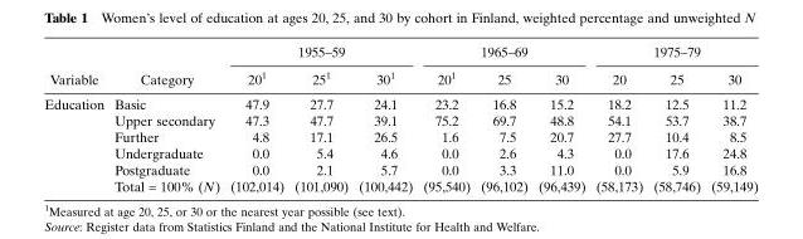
<table><thead><tr><td rowspan="2">Variable</td><td rowspan="2">Category</td><td colspan="3">1955–59</td><td colspan="3">1965–69</td><td colspan="3">1975–79</td></tr><tr><td>20<sup>1</sup></td><td>25<sup>1</sup></td><td>30<sup>1</sup></td><td>20<sup>1</sup></td><td>25</td><td>30</td><td>20</td><td>25</td><td>30</td></tr></thead><tbody><tr><td rowspan="6">Education</td><td>Basic</td><td>47.9</td><td>27.7</td><td>24.1</td><td>23.2</td><td>16.8</td><td>15.2</td><td>18.2</td><td>12.5</td><td>11.2</td></tr><tr><td>Upper secondary</td><td>47.3</td><td>47.7</td><td>39.1</td><td>75.2</td><td>69.7</td><td>48.8</td><td>54.1</td><td>53.7</td><td>38.7</td></tr><tr><td>Further</td><td>4.8</td><td>17.1</td><td>26.5</td><td>1.6</td><td>7.5</td><td>20.7</td><td>27.7</td><td>10.4</td><td>8.5</td></tr><tr><td>Undergraduate</td><td>0.0</td><td>5.4</td><td>4.6</td><td>0.0</td><td>2.6</td><td>4.3</td><td>0.0</td><td>17.6</td><td>24.8</td></tr><tr><td>Postgraduate</td><td>0.0</td><td>2.1</td><td>5.7</td><td>0.0</td><td>3.3</td><td>11.0</td><td>0.0</td><td>5.9</td><td>16.8</td></tr><tr><td>Total = 100% (N)</td><td>(102,014)</td><td>(101,090)</td><td>(100,442)</td><td>(95,540)</td><td>(96,102)</td><td>(96,439)</td><td>(58,173)</td><td>(58,746)</td><td>(59,149)</td></tr></tbody></table>